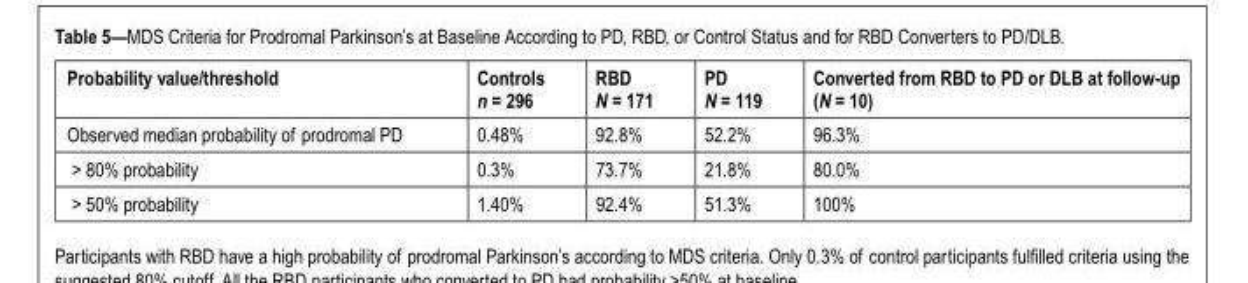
<table><thead><tr><td>Probability value/threshold</td><td>Controls n = 296</td><td>RBD N = 171</td><td>PD N = 119</td><td>Converted from RBD to PD or DLB at follow-up (N = 10)</td></tr></thead><tbody><tr><td>Observed median probability of prodromal PD</td><td>0.48%</td><td>92.8%</td><td>52.2%</td><td>96.3%</td></tr><tr><td>&gt; 80% probability</td><td>0.3%</td><td>73.7%</td><td>21.8%</td><td>80.0%</td></tr><tr><td>&gt; 50% probability</td><td>1.40%</td><td>92.4%</td><td>51.3%</td><td>100%</td></tr></tbody></table>